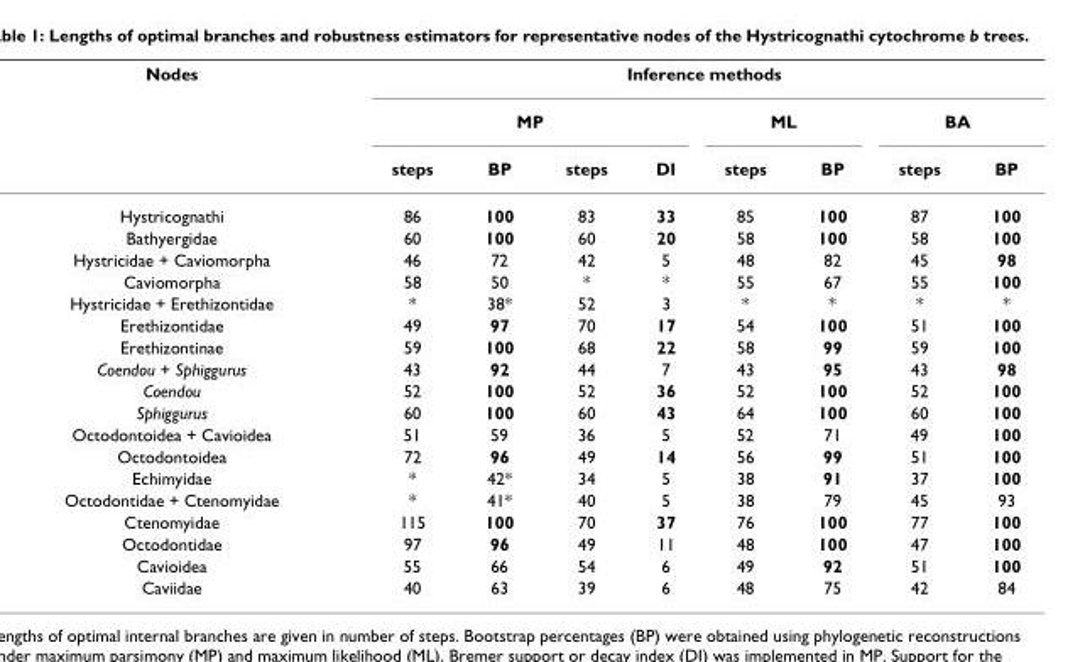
<table><thead><tr><td rowspan="3">Nodes</td><td colspan="8">Inference methods</td></tr><tr><td colspan="4">MP</td><td colspan="2">ML</td><td colspan="2">BA</td></tr><tr><td>steps</td><td>BP</td><td>steps</td><td>DI</td><td>steps</td><td>BP</td><td>steps</td><td>BP</td></tr></thead><tbody><tr><td>Hystricognathi</td><td>86</td><td>100</td><td>83</td><td>33</td><td>85</td><td>100</td><td>87</td><td>100</td></tr><tr><td>Bathyergidae</td><td>60</td><td>100</td><td>60</td><td>20</td><td>58</td><td>100</td><td>58</td><td>100</td></tr><tr><td>Hystricidae + Caviomorpha</td><td>46</td><td>72</td><td>42</td><td>5</td><td>48</td><td>82</td><td>45</td><td>98</td></tr><tr><td>Caviomorpha</td><td>58</td><td>50</td><td>*</td><td>*</td><td>55</td><td>67</td><td>55</td><td>100</td></tr><tr><td>Hystricidae + Erethizontidae</td><td>*</td><td>38*</td><td>52</td><td>3</td><td>*</td><td>*</td><td>*</td><td>*</td></tr><tr><td>Erethizontidae</td><td>49</td><td>97</td><td>70</td><td>17</td><td>54</td><td>100</td><td>51</td><td>100</td></tr><tr><td>Erethizontinae</td><td>59</td><td>100</td><td>68</td><td>22</td><td>58</td><td>99</td><td>59</td><td>100</td></tr><tr><td>Coendou + Sphiggurus</td><td>43</td><td>92</td><td>44</td><td>7</td><td>43</td><td>95</td><td>43</td><td>98</td></tr><tr><td>Coendou</td><td>52</td><td>100</td><td>52</td><td>36</td><td>52</td><td>100</td><td>52</td><td>100</td></tr><tr><td>Sphiggurus</td><td>60</td><td>100</td><td>60</td><td>43</td><td>64</td><td>100</td><td>60</td><td>100</td></tr><tr><td>Octodontoidea + Cavioidea</td><td>51</td><td>59</td><td>36</td><td>5</td><td>52</td><td>71</td><td>49</td><td>100</td></tr><tr><td>Octodontoidea</td><td>72</td><td>96</td><td>49</td><td>14</td><td>56</td><td>99</td><td>51</td><td>100</td></tr><tr><td>Echimyidae</td><td>*</td><td>42*</td><td>34</td><td>5</td><td>38</td><td>91</td><td>37</td><td>100</td></tr><tr><td>Octodontidae + Ctenomyidae</td><td>*</td><td>41*</td><td>40</td><td>5</td><td>38</td><td>79</td><td>45</td><td>93</td></tr><tr><td>Ctenomyidae</td><td>115</td><td>100</td><td>70</td><td>37</td><td>76</td><td>100</td><td>77</td><td>100</td></tr><tr><td>Octodontidae</td><td>97</td><td>96</td><td>49</td><td>11</td><td>48</td><td>100</td><td>47</td><td>100</td></tr><tr><td>Cavioidea</td><td>55</td><td>66</td><td>54</td><td>6</td><td>49</td><td>92</td><td>51</td><td>100</td></tr><tr><td>Caviidae</td><td>40</td><td>63</td><td>39</td><td>6</td><td>48</td><td>75</td><td>42</td><td>84</td></tr></tbody></table>